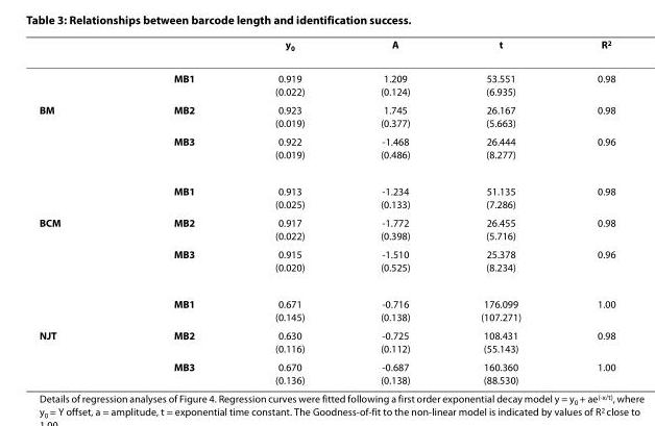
<table><thead><tr><td></td><td></td><td>y<sub>0</sub></td><td>A</td><td>t</td><td>R<sup>2</sup></td></tr></thead><tbody><tr><td></td><td>MB1</td><td>0.919 (0.022)</td><td>1.209 (0.124)</td><td>53.551 (6.935)</td><td>0.98</td></tr><tr><td rowspan="3">BM</td><td>MB2</td><td>0.923 (0.019)</td><td>1.745 (0.377)</td><td>26.167 (5.663)</td><td>0.98</td></tr><tr><td>MB3</td><td>0.922 (0.019)</td><td>-1.468 (0.486)</td><td>26.444 (8.277)</td><td>0.96</td></tr><tr><td>MB1</td><td>0.913 (0.025)</td><td>-1.234 (0.133)</td><td>51.135 (7.286)</td><td>0.98</td></tr><tr><td rowspan="3">BCM</td><td>MB2</td><td>0.917 (0.022)</td><td>-1.772 (0.398)</td><td>26.455 (5.716)</td><td>0.98</td></tr><tr><td>MB3</td><td>0.915 (0.020)</td><td>-1.510 (0.525)</td><td>25.378 (8.234)</td><td>0.96</td></tr><tr><td>MB1</td><td>0.671 (0.145)</td><td>-0.716 (0.138)</td><td>176.099 (107.271)</td><td>1.00</td></tr><tr><td rowspan="2">NJT</td><td>MB2</td><td>0.630 (0.116)</td><td>-0.725 (0.112)</td><td>108.431 (55.143)</td><td>0.98</td></tr><tr><td>MB3</td><td>0.670 (0.136)</td><td>-0.687 (0.138)</td><td>160.360 (88.530)</td><td>1.00</td></tr></tbody></table>